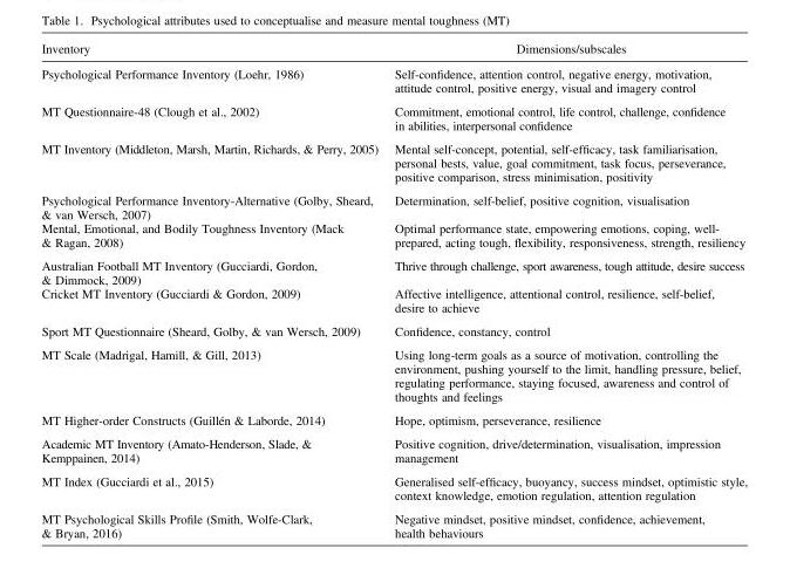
<table><thead><tr><td>Inventory</td><td>Dimensions/subscales</td></tr></thead><tbody><tr><td>Psychological Performance Inventory (Loehr, 1986)</td><td>Self-confidence, attention control, negative energy, motivation, attitude control, positive energy, visual and imagery control</td></tr><tr><td>MT Questionnaire-48 (Clough et al., 2002)</td><td>Commitment, emotional control, life control, challenge, confidence in abilities, interpersonal confidence</td></tr><tr><td>MT Inventory (Middleton, Marsh, Martin, Richards, &amp; Perry, 2005)</td><td>Mental self-concept, potential, self-efficacy, task familiarisation, personal bests, value, goal commitment, task focus, perseverance, positive comparison, stress minimisation, positivity</td></tr><tr><td>Psychological Performance Inventory-Alternative (Golby, Sheard, &amp; van Wersch, 2007)</td><td>Determination, self-belief, positive cognition, visualisation</td></tr><tr><td>Mental, Emotional, and Bodily Toughness Inventory (Mack &amp; Ragan, 2008)</td><td>Optimal performance state, empowering emotions, coping, well- prepared, acting tough, flexibility, responsiveness, strength, resiliency</td></tr><tr><td>Australian Football MT Inventory (Gucciardi, Gordon, &amp; Dimmock, 2009)</td><td>Thrive through challenge, sport awareness, tough attitude, desire success</td></tr><tr><td>Cricket MT Inventory (Gucciardi &amp; Gordon, 2009)</td><td>Affective intelligence, attentional control, resilience, self-belief, desire to achieve</td></tr><tr><td>Sport MT Questionnaire (Sheard, Golby, &amp; van Wersch, 2009)</td><td>Confidence, constancy, control</td></tr><tr><td>MT Scale (Madrigal, Hamill, &amp; Gill, 2013)</td><td>Using long-term goals as a source of motivation, controlling the environment, pushing yourself to the limit, handling pressure, belief, regulating performance, staying focused, awareness and control of thoughts and feelings</td></tr><tr><td>MT Higher-order Constructs (Guillén &amp; Laborde, 2014)</td><td>Hope, optimism, perseverance, resilience</td></tr><tr><td>Academic MT Inventory (Amato-Henderson, Slade, &amp; Kemppainen, 2014)</td><td>Positive cognition, drive/determination, visualisation, impression management</td></tr><tr><td>MT Index (Gucciardi et al., 2015)</td><td>Generalised self-efficacy, buoyancy, success mindset, optimistic style, context knowledge, emotion regulation, attention regulation</td></tr><tr><td>MT Psychological Skills Profile (Smith, Wolfe-Clark, &amp; Bryan, 2016)</td><td>Negative mindset, positive mindset, confidence, achievement, health behaviours</td></tr></tbody></table>